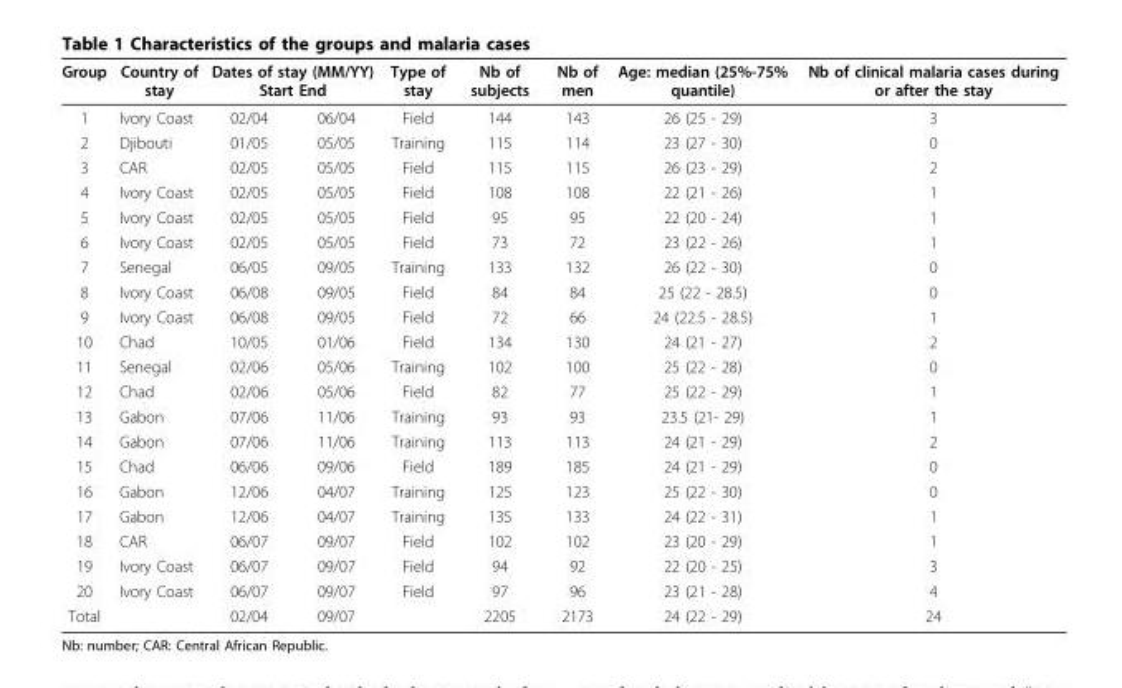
<table><thead><tr><td rowspan="2">Group 1</td><td rowspan="2">Country of stay Ivory Coast</td><td colspan="2">Dates of stay (MM/YY) Start End</td><td rowspan="2">Type of stay Field</td><td rowspan="2">Nb of subjects 144</td><td rowspan="2">Nb of men 143</td><td rowspan="2">Age: median (25%-75% quantile) 26 (25 - 29)</td><td rowspan="2">Nb of clinical malaria cases during or after the stay 3</td></tr><tr><td>02/04</td><td>06/04</td></tr></thead><tbody><tr><td>2</td><td>Djibouti</td><td>01/05</td><td>05/05</td><td>Training</td><td>115</td><td>114</td><td>23 (27 - 30)</td><td>0</td></tr><tr><td>3</td><td>CAR</td><td>02/05</td><td>05/05</td><td>Field</td><td>115</td><td>115</td><td>26 (23 - 29)</td><td>2</td></tr><tr><td>4</td><td>Ivory Coast</td><td>02/05</td><td>05/05</td><td>Field</td><td>108</td><td>108</td><td>22 (21 - 26)</td><td>1</td></tr><tr><td>5</td><td>Ivory Coast</td><td>02/05</td><td>05/05</td><td>Field</td><td>95</td><td>95</td><td>22 (20 - 24)</td><td>1</td></tr><tr><td>6</td><td>Ivory Coast</td><td>02/05</td><td>05/05</td><td>Field</td><td>73</td><td>72</td><td>23 (22 - 26)</td><td>1</td></tr><tr><td>7</td><td>Senegal</td><td>06/05</td><td>09/05</td><td>Training</td><td>133</td><td>132</td><td>26 (22 - 30)</td><td>0</td></tr><tr><td>8</td><td>Ivory Coast</td><td>06/08</td><td>09/05</td><td>Field</td><td>84</td><td>84</td><td>25 (22 - 28.5)</td><td>0</td></tr><tr><td>9</td><td>Ivory Coast</td><td>06/08</td><td>09/05</td><td>Field</td><td>72</td><td>66</td><td>24 (22.5 - 28.5)</td><td>1</td></tr><tr><td>10</td><td>Chad</td><td>10/05</td><td>01/06</td><td>Field</td><td>134</td><td>130</td><td>24 (21 - 27)</td><td>2</td></tr><tr><td>11</td><td>Senegal</td><td>02/06</td><td>05/06</td><td>Training</td><td>102</td><td>100</td><td>25 (22 - 28)</td><td>0</td></tr><tr><td>12</td><td>Chad</td><td>02/06</td><td>05/06</td><td>Field</td><td>82</td><td>77</td><td>25 (22 - 29)</td><td>1</td></tr><tr><td>13</td><td>Gabon</td><td>07/06</td><td>11/06</td><td>Training</td><td>93</td><td>93</td><td>23.5 (21- 29)</td><td>1</td></tr><tr><td>14</td><td>Gabon</td><td>07/06</td><td>11/06</td><td>Training</td><td>113</td><td>113</td><td>24 (21 - 29)</td><td>2</td></tr><tr><td>15</td><td>Chad</td><td>06/06</td><td>09/06</td><td>Field</td><td>189</td><td>185</td><td>24 (21 - 29)</td><td>0</td></tr><tr><td>16</td><td>Gabon</td><td>12/06</td><td>04/07</td><td>Training</td><td>125</td><td>123</td><td>25 (22 - 30)</td><td>0</td></tr><tr><td>17</td><td>Gabon</td><td>12/06</td><td>04/07</td><td>Training</td><td>135</td><td>133</td><td>24 (22 - 31)</td><td>1</td></tr><tr><td>18</td><td>CAR</td><td>06/07</td><td>09/07</td><td>Field</td><td>102</td><td>102</td><td>23 (20 - 29)</td><td>1</td></tr><tr><td>19</td><td>Ivory Coast</td><td>06/07</td><td>09/07</td><td>Field</td><td>94</td><td>92</td><td>22 (20 - 25)</td><td>3</td></tr><tr><td>20</td><td>Ivory Coast</td><td>06/07</td><td>09/07</td><td>Field</td><td>97</td><td>96</td><td>23 (21 - 28)</td><td>4</td></tr><tr><td>Total</td><td></td><td>02/04</td><td>09/07</td><td></td><td>2205</td><td>2173</td><td>24 (22 - 29)</td><td>24</td></tr></tbody></table>